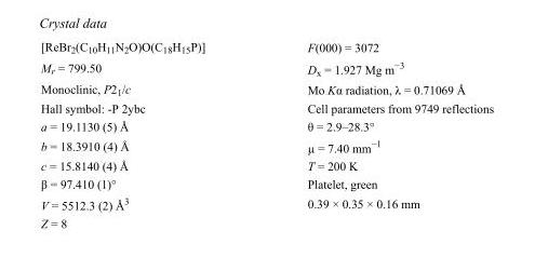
<table><tbody><tr><td>[ReBr<sub>2</sub>(C<sub>10</sub>H<sub>11</sub>N<sub>2</sub>O)O(C<sub>18</sub>H<sub>15</sub>P)]</td><td>F(000) = 3072</td></tr><tr><td>M<sub>r</sub> = 799.50</td><td>D<sub>x</sub> = 1.927 Mg m<sup>−3</sup></td></tr><tr><td>Monoclinic, P2<sub>1</sub>/c</td><td>Mo Kα radiation, λ = 0.71069 Å</td></tr><tr><td>Hall symbol: -P 2ybc</td><td>Cell parameters from 9749 reflections</td></tr><tr><td>a = 19.1130 (5) Å</td><td>θ = 2.9–28.3°</td></tr><tr><td>b = 18.3910 (4) Å</td><td>µ = 7.40 mm<sup>−1</sup></td></tr><tr><td>c = 15.8140 (4) Å</td><td>T = 200 K</td></tr><tr><td>β = 97.410 (1)°</td><td>Platelet, green</td></tr><tr><td>V = 5512.3 (2) Å<sup>3</sup></td><td>0.39 × 0.35 × 0.16 mm</td></tr><tr><td>Z = 8</td><td></td></tr></tbody></table>